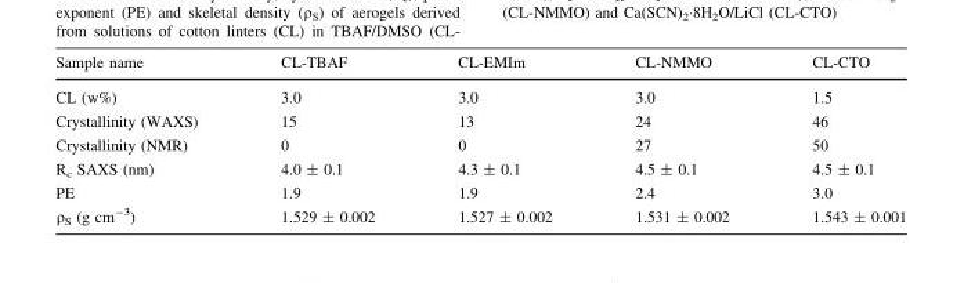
<table><thead><tr><td>Sample name</td><td>CL-TBAF</td><td>CL-EMIm</td><td>CL-NMMO</td><td>CL-CTO</td></tr></thead><tbody><tr><td>CL (w%)</td><td>3.0</td><td>3.0</td><td>3.0</td><td>1.5</td></tr><tr><td>Crystallinity (WAXS)</td><td>15</td><td>13</td><td>24</td><td>46</td></tr><tr><td>Crystallinity (NMR)</td><td>0</td><td>0</td><td>27</td><td>50</td></tr><tr><td>R<sub>c</sub> SAXS (nm)</td><td>4.0 ± 0.1</td><td>4.3 ± 0.1</td><td>4.5 ± 0.1</td><td>4.5 ± 0.1</td></tr><tr><td>PE</td><td>1.9</td><td>1.9</td><td>2.4</td><td>3.0</td></tr><tr><td>ρ<sub>S</sub> (g cm<sup>-3</sup>)</td><td>1.529 ± 0.002</td><td>1.527 ± 0.002</td><td>1.531 ± 0.002</td><td>1.543 ± 0.001</td></tr></tbody></table>